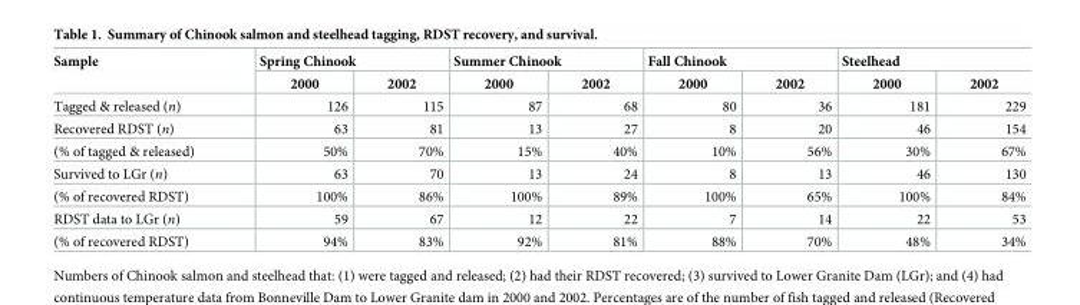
<table><thead><tr><td rowspan="2">Sample</td><td colspan="2">Spring Chinook</td><td colspan="2">Summer Chinook</td><td colspan="2">Fall Chinook</td><td colspan="2">Steelhead</td></tr><tr><td>2000</td><td>2002</td><td>2000</td><td>2002</td><td>2000</td><td>2002</td><td>2000</td><td>2002</td></tr></thead><tbody><tr><td>Tagged &amp; released (n)</td><td>126</td><td>115</td><td>87</td><td>68</td><td>80</td><td>36</td><td>181</td><td>229</td></tr><tr><td>Recovered RDST (n)</td><td>63</td><td>81</td><td>13</td><td>27</td><td>8</td><td>20</td><td>46</td><td>154</td></tr><tr><td>(% of tagged &amp; released)</td><td>50%</td><td>70%</td><td>15%</td><td>40%</td><td>10%</td><td>56%</td><td>30%</td><td>67%</td></tr><tr><td>Survived to LGr (n)</td><td>63</td><td>70</td><td>13</td><td>24</td><td>8</td><td>13</td><td>46</td><td>130</td></tr><tr><td>(% of recovered RDST)</td><td>100%</td><td>86%</td><td>100%</td><td>89%</td><td>100%</td><td>65%</td><td>100%</td><td>84%</td></tr><tr><td>RDST data to LGr (n)</td><td>59</td><td>67</td><td>12</td><td>22</td><td>7</td><td>14</td><td>22</td><td>53</td></tr><tr><td>(% of recovered RDST)</td><td>94%</td><td>83%</td><td>92%</td><td>81%</td><td>88%</td><td>70%</td><td>48%</td><td>34%</td></tr></tbody></table>